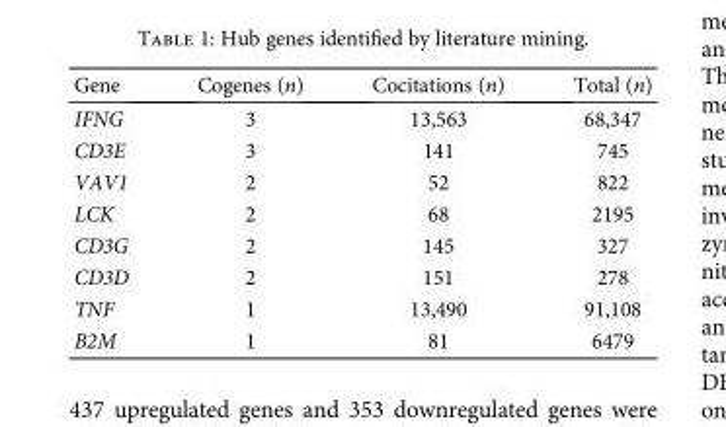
<table><thead><tr><td>Gene</td><td>Cogenes (n)</td><td>Cocitations (n)</td><td>Total (n)</td></tr></thead><tbody><tr><td>IFNG</td><td>3</td><td>13,563</td><td>68,347</td></tr><tr><td>CD3E</td><td>3</td><td>141</td><td>745</td></tr><tr><td>VAV1</td><td>2</td><td>52</td><td>822</td></tr><tr><td>LCK</td><td>2</td><td>68</td><td>2195</td></tr><tr><td>CD3G</td><td>2</td><td>145</td><td>327</td></tr><tr><td>CD3D</td><td>2</td><td>151</td><td>278</td></tr><tr><td>TNF</td><td>1</td><td>13,490</td><td>91,108</td></tr><tr><td>B2M</td><td>1</td><td>81</td><td>6479</td></tr></tbody></table>